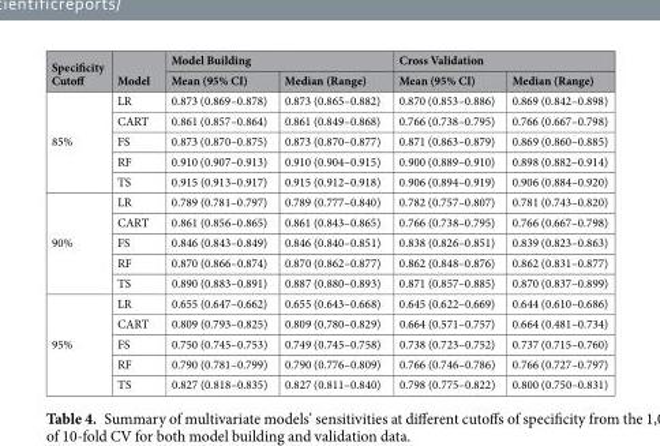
<table><thead><tr><td rowspan="2">Specificity Cutoff</td><td rowspan="2">Model</td><td colspan="2">Model Building</td><td colspan="2">Cross Validation</td></tr><tr><td>Mean (95% CI)</td><td>Median (Range)</td><td>Mean (95% CI)</td><td>Median (Range)</td></tr></thead><tbody><tr><td rowspan="5">85%</td><td>LR</td><td>0.873 (0.869–0.878)</td><td>0.873 (0.865–0.882)</td><td>0.870 (0.853–0.886)</td><td>0.869 (0.842–0.898)</td></tr><tr><td>CART</td><td>0.861 (0.857–0.864)</td><td>0.861 (0.849–0.868)</td><td>0.766 (0.738–0.795)</td><td>0.766 (0.667–0.798)</td></tr><tr><td>FS</td><td>0.873 (0.870–0.875)</td><td>0.873 (0.870–0.877)</td><td>0.871 (0.863–0.879)</td><td>0.869 (0.860–0.885)</td></tr><tr><td>RF</td><td>0.910 (0.907–0.913)</td><td>0.910 (0.904–0.915)</td><td>0.900 (0.889–0.910)</td><td>0.898 (0.882–0.914)</td></tr><tr><td>TS</td><td>0.915 (0.913–0.917)</td><td>0.915 (0.912–0.918)</td><td>0.906 (0.894–0.919)</td><td>0.906 (0.884–0.920)</td></tr><tr><td rowspan="5">90%</td><td>LR</td><td>0.789 (0.781–0.797)</td><td>0.789 (0.777–0.840)</td><td>0.782 (0.757–0.807)</td><td>0.781 (0.743–0.820)</td></tr><tr><td>CART</td><td>0.861 (0.856–0.865)</td><td>0.861 (0.843–0.865)</td><td>0.766 (0.738–0.795)</td><td>0.766 (0.667–0.798)</td></tr><tr><td>FS</td><td>0.846 (0.843–0.849)</td><td>0.846 (0.840–0.851)</td><td>0.838 (0.826–0.851)</td><td>0.839 (0.823–0.863)</td></tr><tr><td>RF</td><td>0.870 (0.866–0.874)</td><td>0.870 (0.862–0.877)</td><td>0.862 (0.848–0.876)</td><td>0.862 (0.831–0.877)</td></tr><tr><td>TS</td><td>0.890 (0.883–0.891)</td><td>0.887 (0.880–0.893)</td><td>0.871 (0.857–0.885)</td><td>0.870 (0.837–0.899)</td></tr><tr><td rowspan="5">95%</td><td>LR</td><td>0.655 (0.647–0.662)</td><td>0.655 (0.643–0.668)</td><td>0.645 (0.622–0.669)</td><td>0.644 (0.610–0.686)</td></tr><tr><td>CART</td><td>0.809 (0.793–0.825)</td><td>0.809 (0.780–0.829)</td><td>0.664 (0.571–0.757)</td><td>0.664 (0.481–0.734)</td></tr><tr><td>FS</td><td>0.750 (0.745–0.753)</td><td>0.749 (0.745–0.758)</td><td>0.738 (0.723–0.752)</td><td>0.737 (0.715–0.760)</td></tr><tr><td>RF</td><td>0.790 (0.781–0.799)</td><td>0.790 (0.776–0.809)</td><td>0.766 (0.746–0.786)</td><td>0.766 (0.727–0.797)</td></tr><tr><td>TS</td><td>0.827 (0.818–0.835)</td><td>0.827 (0.811–0.840)</td><td>0.798 (0.775–0.822)</td><td>0.800 (0.750–0.831)</td></tr></tbody></table>